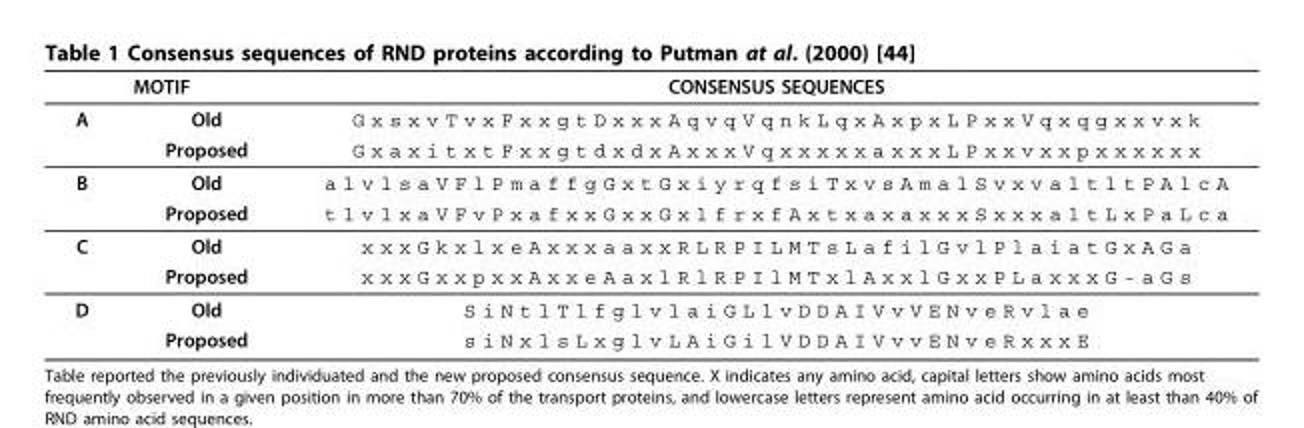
<table><thead><tr><td colspan="2">MOTIF</td><td rowspan="2">CONSENSUS SEQUENCES G x s x v T v x F x x g t D x x x A q v q V q n k L q x A x p x L P x x V q x q g x x v x k</td></tr><tr><td>A</td><td>Old</td></tr></thead><tbody><tr><td></td><td>Proposed</td><td>G x a x i t x t F x x g t d x d x A x x x V q x x x x x a x x x L P x x v x x p x x x x x x</td></tr><tr><td rowspan="2">B</td><td>Old</td><td>a l v l s a V F l P m a f f g G x t G x i y r q f s i T x v s A m a l S v x v a l t l t P A l c A</td></tr><tr><td>Proposed</td><td>t l v l x a V F v P x a f x x G x x G x l f r x f A x t x a x a x x x S x x x a l t L x P a L c a</td></tr><tr><td rowspan="2">C</td><td>Old</td><td>x x x G k x l x e A x x x a a x x R L R P I L M T s L a f i l G v l P l a i a t G x A G a</td></tr><tr><td>Proposed</td><td>x x x G x x p x x A x x e A a x l R l R P I l M T x l A x x l G x x P L a x x x G - a G s</td></tr><tr><td rowspan="2">D</td><td>Old</td><td>S i N t l T l f g l v l a i G L l v D D A I V v V E N v e R v l a e</td></tr><tr><td>Proposed</td><td>s i N x l s L x g l v L A i G i l V D D A I V v v E N v e R x x x E</td></tr></tbody></table>